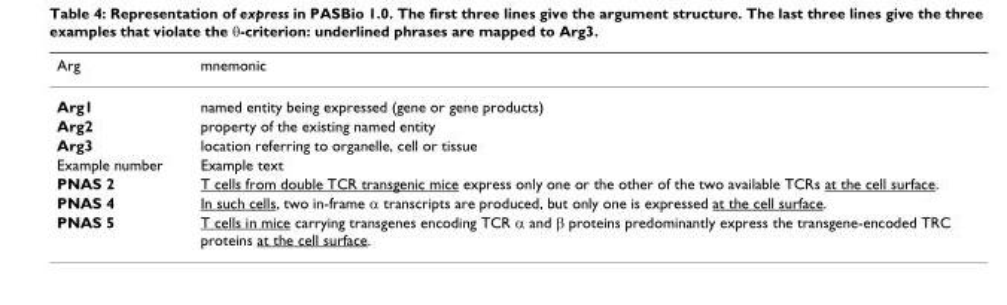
<table><thead><tr><td>Arg</td><td>mnemonic</td></tr></thead><tbody><tr><td>Arg1</td><td>named entity being expressed (gene or gene products)</td></tr><tr><td>Arg2</td><td>property of the existing named entity</td></tr><tr><td>Arg3</td><td>location referring to organelle, cell or tissue</td></tr><tr><td>Example number</td><td>Example text</td></tr><tr><td>PNAS 2</td><td>T cells from double TCR transgenic mice express only one or the other of the two available TCRs at the cell surface.</td></tr><tr><td>PNAS 4</td><td>In such cells, two in-frame α transcripts are produced, but only one is expressed at the cell surface.</td></tr><tr><td>PNAS 5</td><td>T cells in mice carrying transgenes encoding TCR α and β proteins predominantly express the transgene-encoded TRC proteins at the cell surface.</td></tr></tbody></table>